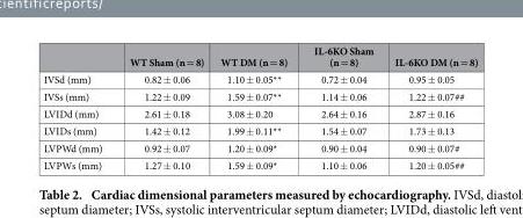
<table><thead><tr><td></td><td>WT Sham (n = 8)</td><td>WT DM (n = 8)</td><td>IL-6KO Sham (n = 8)</td><td>IL-6KO DM (n = 8)</td></tr></thead><tbody><tr><td>IVSd (mm)</td><td>0.82 ± 0.06</td><td>1.10 ± 0.05**</td><td>0.72 ± 0.04</td><td>0.95 ± 0.05</td></tr><tr><td>IVSs (mm)</td><td>1.22 ± 0.09</td><td>1.59 ± 0.07**</td><td>1.14 ± 0.06</td><td>1.22 ± 0.07##</td></tr><tr><td>LVIDd (mm)</td><td>2.61 ± 0.18</td><td>3.08 ± 0.20</td><td>2.64 ± 0.16</td><td>2.87 ± 0.16</td></tr><tr><td>LVIDs (mm)</td><td>1.42 ± 0.12</td><td>1.99 ± 0.11**</td><td>1.54 ± 0.07</td><td>1.73 ± 0.13</td></tr><tr><td>LVPWd (mm)</td><td>0.92 ± 0.07</td><td>1.20 ± 0.09*</td><td>0.90 ± 0.04</td><td>0.90 ± 0.07#</td></tr><tr><td>LVPWs (mm)</td><td>1.27 ± 0.10</td><td>1.59 ± 0.09*</td><td>1.10 ± 0.06</td><td>1.20 ± 0.05##</td></tr></tbody></table>